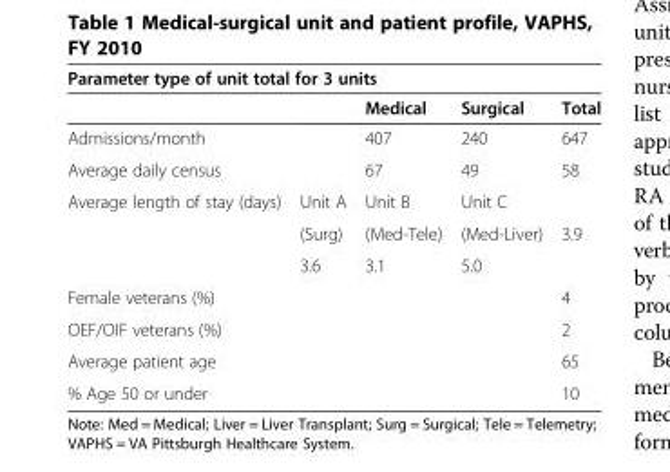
<table><thead><tr><td colspan="5">Parameter type of unit total for 3 units</td></tr><tr><td></td><td></td><td>Medical</td><td>Surgical</td><td>Total</td></tr></thead><tbody><tr><td>Admissions/month</td><td></td><td>407</td><td>240</td><td>647</td></tr><tr><td>Average daily census</td><td></td><td>67</td><td>49</td><td>58</td></tr><tr><td rowspan="3">Average length of stay (days)</td><td>Unit A</td><td>Unit B</td><td>Unit C</td><td rowspan="3">3.9</td></tr><tr><td>(Surg)</td><td>(Med-Tele)</td><td>(Med-Liver)</td></tr><tr><td>3.6</td><td>3.1</td><td>5.0</td></tr><tr><td>Female veterans (%)</td><td></td><td></td><td></td><td>4</td></tr><tr><td>OEF/OIF veterans (%)</td><td></td><td></td><td></td><td>2</td></tr><tr><td>Average patient age</td><td></td><td></td><td></td><td>65</td></tr><tr><td>% Age 50 or under</td><td></td><td></td><td></td><td>10</td></tr></tbody></table>